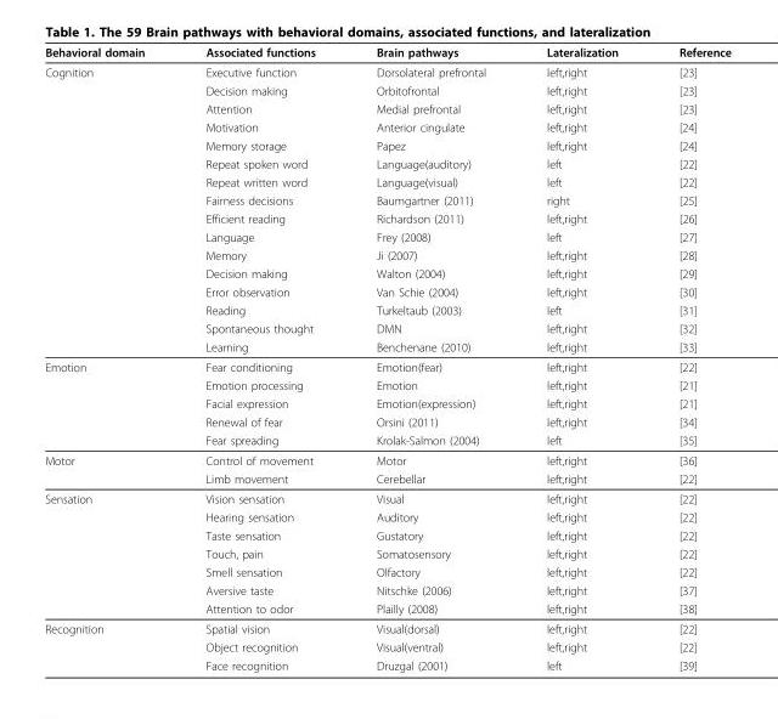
<table><thead><tr><td>Behavioral domain</td><td>Associated functions</td><td>Brain pathways</td><td>Lateralization</td><td>Reference</td></tr></thead><tbody><tr><td rowspan="16">Cognition</td><td>Executive function</td><td>Dorsolateral prefrontal</td><td>left,right</td><td>[23]</td></tr><tr><td>Decision making</td><td>Orbitofrontal</td><td>left,right</td><td>[23]</td></tr><tr><td>Attention</td><td>Medial prefrontal</td><td>left,right</td><td>[23]</td></tr><tr><td>Motivation</td><td>Anterior cingulate</td><td>left,right</td><td>[24]</td></tr><tr><td>Memory storage</td><td>Papez</td><td>left,right</td><td>[24]</td></tr><tr><td>Repeat spoken word</td><td>Language(auditory)</td><td>left</td><td>[22]</td></tr><tr><td>Repeat written word</td><td>Language(visual)</td><td>left</td><td>[22]</td></tr><tr><td>Fairness decisions</td><td>Baumgartner (2011)</td><td>right</td><td>[25]</td></tr><tr><td>Efficient reading</td><td>Richardson (2011)</td><td>left,right</td><td>[26]</td></tr><tr><td>Language</td><td>Frey (2008)</td><td>left</td><td>[27]</td></tr><tr><td>Memory</td><td>Ji (2007)</td><td>left,right</td><td>[28]</td></tr><tr><td>Decision making</td><td>Walton (2004)</td><td>left,right</td><td>[29]</td></tr><tr><td>Error observation</td><td>Van Schie (2004)</td><td>left,right</td><td>[30]</td></tr><tr><td>Reading</td><td>Turkeltaub (2003)</td><td>left</td><td>[31]</td></tr><tr><td>Spontaneous thought</td><td>DMN</td><td>left,right</td><td>[32]</td></tr><tr><td>Learning</td><td>Benchenane (2010)</td><td>left,right</td><td>[33]</td></tr><tr><td rowspan="5">Emotion</td><td>Fear conditioning</td><td>Emotion(fear)</td><td>left,right</td><td>[22]</td></tr><tr><td>Emotion processing</td><td>Emotion</td><td>left,right</td><td>[21]</td></tr><tr><td>Facial expression</td><td>Emotion(expression)</td><td>left,right</td><td>[21]</td></tr><tr><td>Renewal of fear</td><td>Orsini (2011)</td><td>left,right</td><td>[34]</td></tr><tr><td>Fear spreading</td><td>Krolak-Salmon (2004)</td><td>left</td><td>[35]</td></tr><tr><td rowspan="2">Motor</td><td>Control of movement</td><td>Motor</td><td>left,right</td><td>[36]</td></tr><tr><td>Limb movement</td><td>Cerebellar</td><td>left,right</td><td>[22]</td></tr><tr><td rowspan="7">Sensation</td><td>Vision sensation</td><td>Visual</td><td>left,right</td><td>[22]</td></tr><tr><td>Hearing sensation</td><td>Auditory</td><td>left,right</td><td>[22]</td></tr><tr><td>Taste sensation</td><td>Gustatory</td><td>left,right</td><td>[22]</td></tr><tr><td>Touch, pain</td><td>Somatosensory</td><td>left,right</td><td>[22]</td></tr><tr><td>Smell sensation</td><td>Olfactory</td><td>left,right</td><td>[22]</td></tr><tr><td>Aversive taste</td><td>Nitschke (2006)</td><td>left,right</td><td>[37]</td></tr><tr><td>Attention to odor</td><td>Plailly (2008)</td><td>left,right</td><td>[38]</td></tr><tr><td rowspan="3">Recognition</td><td>Spatial vision</td><td>Visual(dorsal)</td><td>left,right</td><td>[22]</td></tr><tr><td>Object recognition</td><td>Visual(ventral)</td><td>left,right</td><td>[22]</td></tr><tr><td>Face recognition</td><td>Druzgal (2001)</td><td>left</td><td>[39]</td></tr></tbody></table>